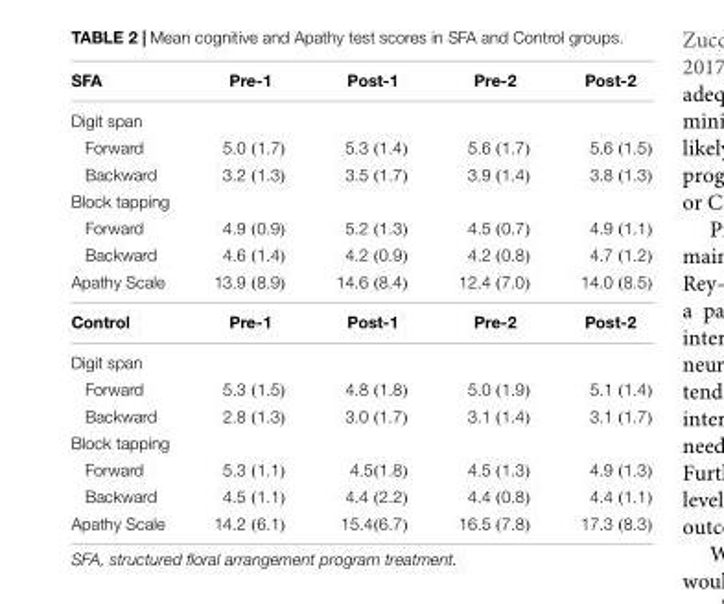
<table><thead><tr><td>SFA</td><td>Pre-1</td><td>Post-1</td><td>Pre-2</td><td>Post-2</td></tr></thead><tbody><tr><td colspan="5">Digit span</td></tr><tr><td>Forward</td><td>5.0 (1.7)</td><td>5.3 (1.4)</td><td>5.6 (1.7)</td><td>5.6 (1.5)</td></tr><tr><td>Backward</td><td>3.2 (1.3)</td><td>3.5 (1.7)</td><td>3.9 (1.4)</td><td>3.8 (1.3)</td></tr><tr><td colspan="5">Block tapping</td></tr><tr><td>Forward</td><td>4.9 (0.9)</td><td>5.2 (1.3)</td><td>4.5 (0.7)</td><td>4.9 (1.1)</td></tr><tr><td>Backward</td><td>4.6 (1.4)</td><td>4.2 (0.9)</td><td>4.2 (0.8)</td><td>4.7 (1.2)</td></tr><tr><td>Apathy Scale</td><td>13.9 (8.9)</td><td>14.6 (8.4)</td><td>12.4 (7.0)</td><td>14.0 (8.5)</td></tr><tr><td>Control</td><td>Pre-1</td><td>Post-1</td><td>Pre-2</td><td>Post-2</td></tr><tr><td colspan="5">Digit span</td></tr><tr><td>Forward</td><td>5.3 (1.5)</td><td>4.8 (1.8)</td><td>5.0 (1.9)</td><td>5.1 (1.4)</td></tr><tr><td>Backward</td><td>2.8 (1.3)</td><td>3.0 (1.7)</td><td>3.1 (1.4)</td><td>3.1 (1.7)</td></tr><tr><td colspan="5">Block tapping</td></tr><tr><td>Forward</td><td>5.3 (1.1)</td><td>4.5(1.8)</td><td>4.5 (1.3)</td><td>4.9 (1.3)</td></tr><tr><td>Backward</td><td>4.5 (1.1)</td><td>4.4 (2.2)</td><td>4.4 (0.8)</td><td>4.4 (1.1)</td></tr><tr><td>Apathy Scale</td><td>14.2 (6.1)</td><td>15.4(6.7)</td><td>16.5 (7.8)</td><td>17.3 (8.3)</td></tr></tbody></table>